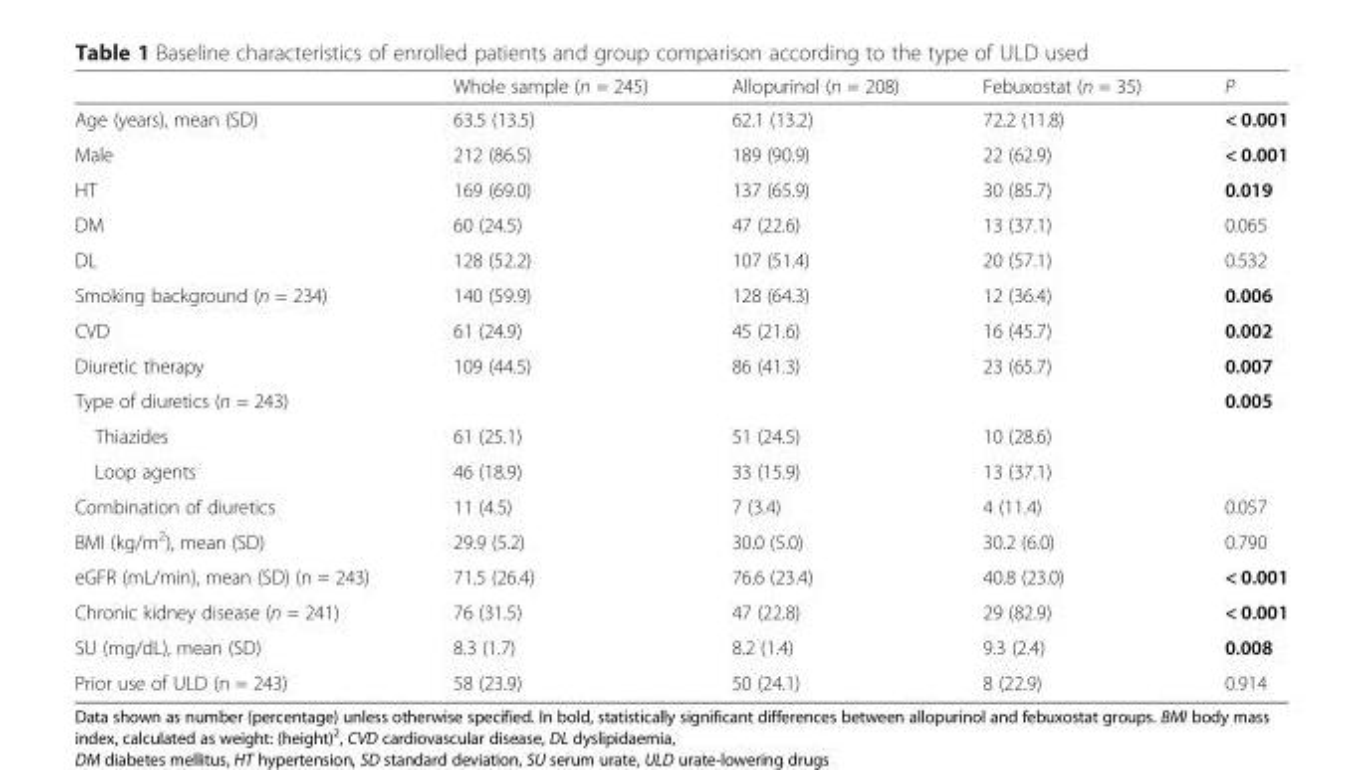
<table><thead><tr><td></td><td>Whole sample (n = 245)</td><td>Allopurinol (n = 208)</td><td>Febuxostat (n = 35)</td><td>P</td></tr></thead><tbody><tr><td>Age (years), mean (SD)</td><td>63.5 (13.5)</td><td>62.1 (13.2)</td><td>72.2 (11.8)</td><td>&lt; 0.001</td></tr><tr><td>Male</td><td>212 (86.5)</td><td>189 (90.9)</td><td>22 (62.9)</td><td>&lt; 0.001</td></tr><tr><td>HT</td><td>169 (69.0)</td><td>137 (65.9)</td><td>30 (85.7)</td><td>0.019</td></tr><tr><td>DM</td><td>60 (24.5)</td><td>47 (22.6)</td><td>13 (37.1)</td><td>0.065</td></tr><tr><td>DL</td><td>128 (52.2)</td><td>107 (51.4)</td><td>20 (57.1)</td><td>0.532</td></tr><tr><td>Smoking background (n = 234)</td><td>140 (59.9)</td><td>128 (64.3)</td><td>12 (36.4)</td><td>0.006</td></tr><tr><td>CVD</td><td>61 (24.9)</td><td>45 (21.6)</td><td>16 (45.7)</td><td>0.002</td></tr><tr><td>Diuretic therapy</td><td>109 (44.5)</td><td>86 (41.3)</td><td>23 (65.7)</td><td>0.007</td></tr><tr><td>Type of diuretics (n = 243)</td><td></td><td></td><td></td><td>0.005</td></tr><tr><td>Thiazides</td><td>61 (25.1)</td><td>51 (24.5)</td><td>10 (28.6)</td><td rowspan="2"></td></tr><tr><td>Loop agents</td><td>46 (18.9)</td><td>33 (15.9)</td><td>13 (37.1)</td></tr><tr><td>Combination of diuretics</td><td>11 (4.5)</td><td>7 (3.4)</td><td>4 (11.4)</td><td>0.057</td></tr><tr><td>BMI (kg/m<sup>2</sup>), mean (SD)</td><td>29.9 (5.2)</td><td>30.0 (5.0)</td><td>30.2 (6.0)</td><td>0.790</td></tr><tr><td>eGFR (mL/min), mean (SD) (n = 243)</td><td>71.5 (26.4)</td><td>76.6 (23.4)</td><td>40.8 (23.0)</td><td>&lt; 0.001</td></tr><tr><td>Chronic kidney disease (n = 241)</td><td>76 (31.5)</td><td>47 (22.8)</td><td>29 (82.9)</td><td>&lt; 0.001</td></tr><tr><td>SU (mg/dL), mean (SD)</td><td>8.3 (1.7)</td><td>8.2 (1.4)</td><td>9.3 (2.4)</td><td>0.008</td></tr><tr><td>Prior use of ULD (n = 243)</td><td>58 (23.9)</td><td>50 (24.1)</td><td>8 (22.9)</td><td>0.914</td></tr></tbody></table>